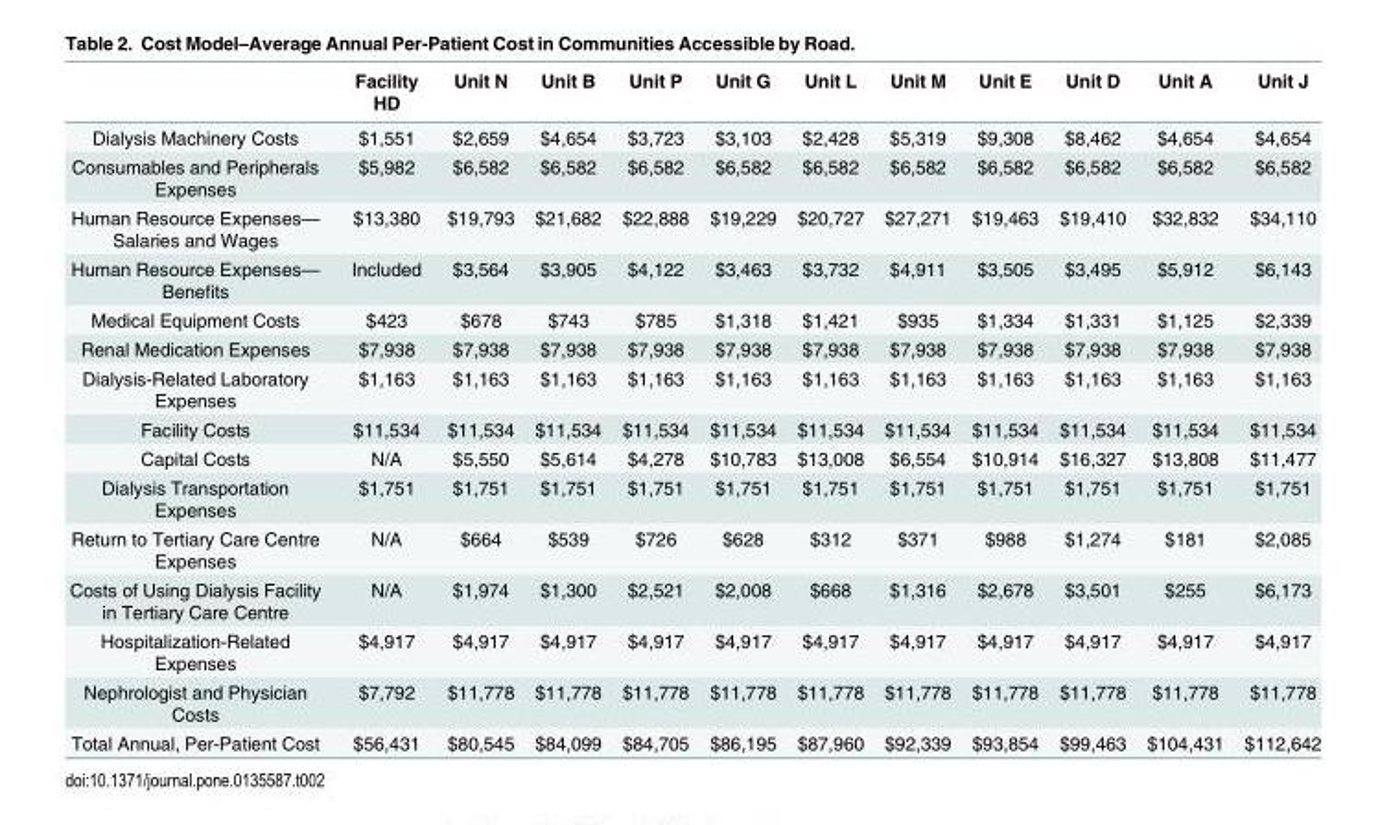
<table><thead><tr><td></td><td>Facility HD</td><td>Unit N</td><td>Unit B</td><td>Unit P</td><td>Unit G</td><td>Unit L</td><td>Unit M</td><td>Unit E</td><td>Unit D</td><td>Unit A</td><td>Unit J</td></tr></thead><tbody><tr><td>Dialysis Machinery Costs</td><td>$1,551</td><td>$2,659</td><td>$4,654</td><td>$3,723</td><td>$3,103</td><td>$2,428</td><td>$5,319</td><td>$9,308</td><td>$8,462</td><td>$4,654</td><td>$4,654</td></tr><tr><td>Consumables and Peripherals Expenses</td><td>$5,982</td><td>$6,582</td><td>$6,582</td><td>$6,582</td><td>$6,582</td><td>$6,582</td><td>$6,582</td><td>$6,582</td><td>$6,582</td><td>$6,582</td><td>$6,582</td></tr><tr><td>Human Resource Expenses— Salaries and Wages</td><td>$13,380</td><td>$19,793</td><td>$21,682</td><td>$22,888</td><td>$19,229</td><td>$20,727</td><td>$27,271</td><td>$19,463</td><td>$19,410</td><td>$32,832</td><td>$34,110</td></tr><tr><td>Human Resource Expenses— Benefits</td><td>Included</td><td>$3,564</td><td>$3,905</td><td>$4,122</td><td>$3,463</td><td>$3,732</td><td>$4,911</td><td>$3,505</td><td>$3,495</td><td>$5,912</td><td>$6,143</td></tr><tr><td>Medical Equipment Costs</td><td>$423</td><td>$678</td><td>$743</td><td>$785</td><td>$1,318</td><td>$1,421</td><td>$935</td><td>$1,334</td><td>$1,331</td><td>$1,125</td><td>$2,339</td></tr><tr><td>Renal Medication Expenses</td><td>$7,938</td><td>$7,938</td><td>$7,938</td><td>$7,938</td><td>$7,938</td><td>$7,938</td><td>$7,938</td><td>$7,938</td><td>$7,938</td><td>$7,938</td><td>$7,938</td></tr><tr><td>Dialysis-Related Laboratory Expenses</td><td>$1,163</td><td>$1,163</td><td>$1,163</td><td>$1,163</td><td>$1,163</td><td>$1,163</td><td>$1,163</td><td>$1,163</td><td>$1,163</td><td>$1,163</td><td>$1,163</td></tr><tr><td>Facility Costs</td><td>$11,534</td><td>$11,534</td><td>$11,534</td><td>$11,534</td><td>$11,534</td><td>$11,534</td><td>$11,534</td><td>$11,534</td><td>$11,534</td><td>$11,534</td><td>$11,534</td></tr><tr><td>Capital Costs</td><td>N/A</td><td>$5,550</td><td>$5,614</td><td>$4,278</td><td>$10,783</td><td>$13,008</td><td>$6,554</td><td>$10,914</td><td>$16,327</td><td>$13,808</td><td>$11,477</td></tr><tr><td>Dialysis Transportation Expenses</td><td>$1,751</td><td>$1,751</td><td>$1,751</td><td>$1,751</td><td>$1,751</td><td>$1,751</td><td>$1,751</td><td>$1,751</td><td>$1,751</td><td>$1,751</td><td>$1,751</td></tr><tr><td>Return to Tertiary Care Centre Expenses</td><td>N/A</td><td>$664</td><td>$539</td><td>$726</td><td>$628</td><td>$312</td><td>$371</td><td>$988</td><td>$1,274</td><td>$181</td><td>$2,085</td></tr><tr><td>Costs of Using Dialysis Facility in Tertiary Care Centre</td><td>N/A</td><td>$1,974</td><td>$1,300</td><td>$2,521</td><td>$2,008</td><td>$668</td><td>$1,316</td><td>$2,678</td><td>$3,501</td><td>$255</td><td>$6,173</td></tr><tr><td>Hospitalization-Related Expenses</td><td>$4,917</td><td>$4,917</td><td>$4,917</td><td>$4,917</td><td>$4,917</td><td>$4,917</td><td>$4,917</td><td>$4,917</td><td>$4,917</td><td>$4,917</td><td>$4,917</td></tr><tr><td>Nephrologist and Physician Costs</td><td>$7,792</td><td>$11,778</td><td>$11,778</td><td>$11,778</td><td>$11,778</td><td>$11,778</td><td>$11,778</td><td>$11,778</td><td>$11,778</td><td>$11,778</td><td>$11,778</td></tr><tr><td>Total Annual, Per-Patient Cost</td><td>$56,431</td><td>$80,545</td><td>$84,099</td><td>$84,705</td><td>$86,195</td><td>$87,960</td><td>$92,339</td><td>$93,854</td><td>$99,463</td><td>$104,431</td><td>$112,642</td></tr></tbody></table>